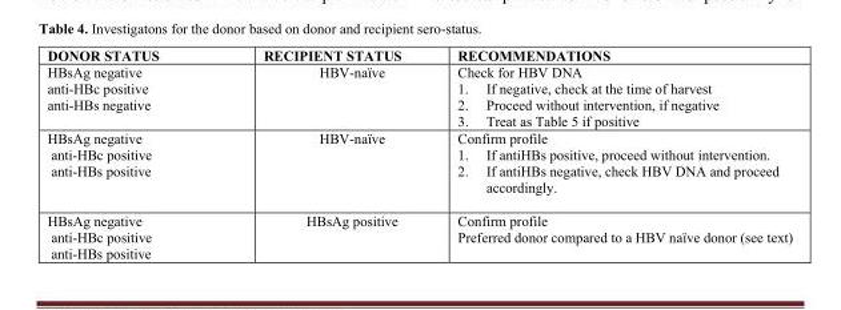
<table><thead><tr><td>DONOR STATUS</td><td>RECIPIENT STATUS</td><td>RECOMMENDATIONS</td></tr></thead><tbody><tr><td>HBsAg negative anti-HBc positive anti-HBs negative</td><td>HBV-naïve</td><td>Check for HBV DNA 1. If negative, check at the time of harvest 2. Proceed without intervention, if negative 3. Treat as Table 5 if positive</td></tr><tr><td>HBsAg negative anti-HBc positive anti-HBs positive</td><td>HBV-naïve</td><td>Confirm profile 1. If antiHBs positive, proceed without intervention. 2. If antiHBs negative, check HBV DNA and proceed accordingly.</td></tr><tr><td>HBsAg negative anti-HBc positive anti-HBs positive</td><td>HBsAg positive</td><td>Confirm profile Preferred donor compared to a HBV naïve donor (see text)</td></tr></tbody></table>